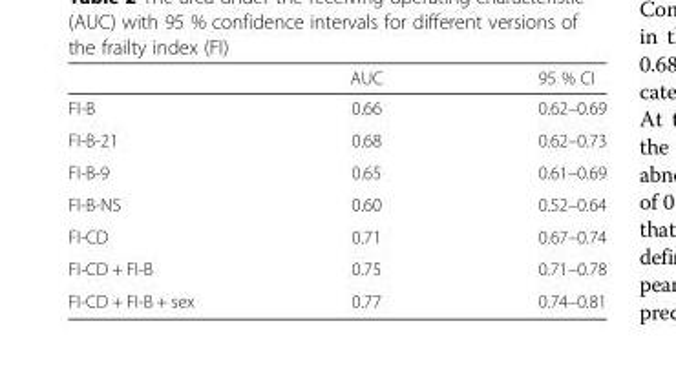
<table><thead><tr><td></td><td>AUC</td><td>95 % CI</td></tr></thead><tbody><tr><td>FI-B</td><td>0.66</td><td>0.62–0.69</td></tr><tr><td>FI-B-21</td><td>0.68</td><td>0.62–0.73</td></tr><tr><td>FI-B-9</td><td>0.65</td><td>0.61–0.69</td></tr><tr><td>FI-B-NS</td><td>0.60</td><td>0.52–0.64</td></tr><tr><td>FI-CD</td><td>0.71</td><td>0.67–0.74</td></tr><tr><td>FI-CD + FI-B</td><td>0.75</td><td>0.71–0.78</td></tr><tr><td>FI-CD + FI-B + sex</td><td>0.77</td><td>0.74–0.81</td></tr></tbody></table>